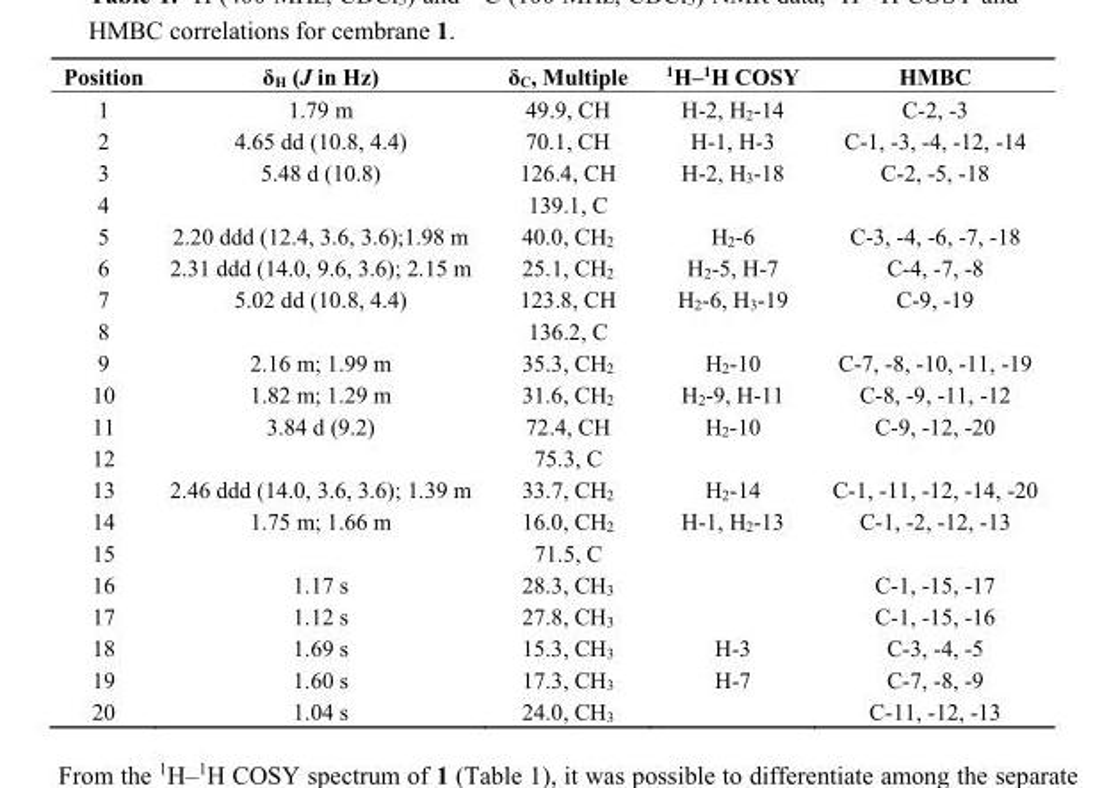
<table><thead><tr><td>Position</td><td>δ<sub>H</sub> (J in Hz)</td><td>δ<sub>C</sub>, Multiple</td><td><sup>1</sup>H–<sup>1</sup>H COSY</td><td>HMBC</td></tr></thead><tbody><tr><td>1</td><td>1.79 m</td><td>49.9, CH</td><td>H-2, H<sub>2</sub>-14</td><td>C-2, -3</td></tr><tr><td>2</td><td>4.65 dd (10.8, 4.4)</td><td>70.1, CH</td><td>H-1, H-3</td><td>C-1, -3, -4, -12, -14</td></tr><tr><td>3</td><td>5.48 d (10.8)</td><td>126.4, CH</td><td>H-2, H<sub>3</sub>-18</td><td>C-2, -5, -18</td></tr><tr><td>4</td><td></td><td>139.1, C</td><td></td><td></td></tr><tr><td>5</td><td>2.20 ddd (12.4, 3.6, 3.6);1.98 m</td><td>40.0, CH<sub>2</sub></td><td>H<sub>2</sub>-6</td><td>C-3, -4, -6, -7, -18</td></tr><tr><td>6</td><td>2.31 ddd (14.0, 9.6, 3.6); 2.15 m</td><td>25.1, CH<sub>2</sub></td><td>H<sub>2</sub>-5, H-7</td><td>C-4, -7, -8</td></tr><tr><td>7</td><td>5.02 dd (10.8, 4.4)</td><td>123.8, CH</td><td>H<sub>2</sub>-6, H<sub>3</sub>-19</td><td>C-9, -19</td></tr><tr><td>8</td><td></td><td>136.2, C</td><td></td><td></td></tr><tr><td>9</td><td>2.16 m; 1.99 m</td><td>35.3, CH<sub>2</sub></td><td>H<sub>2</sub>-10</td><td>C-7, -8, -10, -11, -19</td></tr><tr><td>10</td><td>1.82 m; 1.29 m</td><td>31.6, CH<sub>2</sub></td><td>H<sub>2</sub>-9, H-11</td><td>C-8, -9, -11, -12</td></tr><tr><td>11</td><td>3.84 d (9.2)</td><td>72.4, CH</td><td>H<sub>2</sub>-10</td><td>C-9, -12, -20</td></tr><tr><td>12</td><td></td><td>75.3, C</td><td></td><td></td></tr><tr><td>13</td><td>2.46 ddd (14.0, 3.6, 3.6); 1.39 m</td><td>33.7, CH<sub>2</sub></td><td>H<sub>2</sub>-14</td><td>C-1, -11, -12, -14, -20</td></tr><tr><td>14</td><td>1.75 m; 1.66 m</td><td>16.0, CH<sub>2</sub></td><td>H-1, H<sub>2</sub>-13</td><td>C-1, -2, -12, -13</td></tr><tr><td>15</td><td></td><td>71.5, C</td><td></td><td></td></tr><tr><td>16</td><td>1.17 s</td><td>28.3, CH<sub>3</sub></td><td></td><td>C-1, -15, -17</td></tr><tr><td>17</td><td>1.12 s</td><td>27.8, CH<sub>3</sub></td><td></td><td>C-1, -15, -16</td></tr><tr><td>18</td><td>1.69 s</td><td>15.3, CH<sub>3</sub></td><td>H-3</td><td>C-3, -4, -5</td></tr><tr><td>19</td><td>1.60 s</td><td>17.3, CH<sub>3</sub></td><td>H-7</td><td>C-7, -8, -9</td></tr><tr><td>20</td><td>1.04 s</td><td>24.0, CH<sub>3</sub></td><td></td><td>C-11, -12, -13</td></tr></tbody></table>